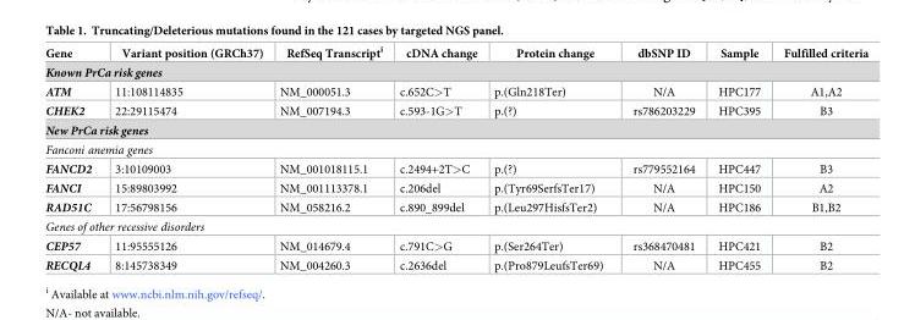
<table><thead><tr><td>Gene</td><td>Variant position (GRCh37)</td><td>RefSeq Transcript<sup>i</sup></td><td>cDNA change</td><td>Protein change</td><td>dbSNP ID</td><td>Sample</td><td>Fulfilled criteria</td></tr></thead><tbody><tr><td colspan="8">Known PrCa risk genes</td></tr><tr><td>ATM</td><td>11:108114835</td><td>NM_000051.3</td><td>c.652C&gt;T</td><td>p.(Gln218Ter)</td><td>N/A</td><td>HPC177</td><td>A1,A2</td></tr><tr><td>CHEK2</td><td>22:29115474</td><td>NM_007194.3</td><td>c.593-1G&gt;T</td><td>p.(?)</td><td>rs786203229</td><td>HPC395</td><td>B3</td></tr><tr><td colspan="8">New PrCa risk genes</td></tr><tr><td colspan="8">Fanconi anemia genes</td></tr><tr><td>FANCD2</td><td>3:10109003</td><td>NM_001018115.1</td><td>c.2494+2T&gt;C</td><td>p.(?)</td><td>rs779552164</td><td>HPC447</td><td>B3</td></tr><tr><td>FANCI</td><td>15:89803992</td><td>NM_001113378.1</td><td>c.206del</td><td>p.(Tyr69SerfsTer17)</td><td>N/A</td><td>HPC150</td><td>A2</td></tr><tr><td>RAD51C</td><td>17:56798156</td><td>NM_058216.2</td><td>c.890_899del</td><td>p.(Leu297HisfsTer2)</td><td>N/A</td><td>HPC186</td><td>B1,B2</td></tr><tr><td colspan="8">Genes of other recessive disorders</td></tr><tr><td>CEP57</td><td>11:95555126</td><td>NM_014679.4</td><td>c.791C&gt;G</td><td>p.(Ser264Ter)</td><td>rs368470481</td><td>HPC421</td><td>B2</td></tr><tr><td>RECQL4</td><td>8:145738349</td><td>NM_004260.3</td><td>c.2636del</td><td>p.(Pro879LeufsTer69)</td><td>N/A</td><td>HPC455</td><td>B2</td></tr></tbody></table>